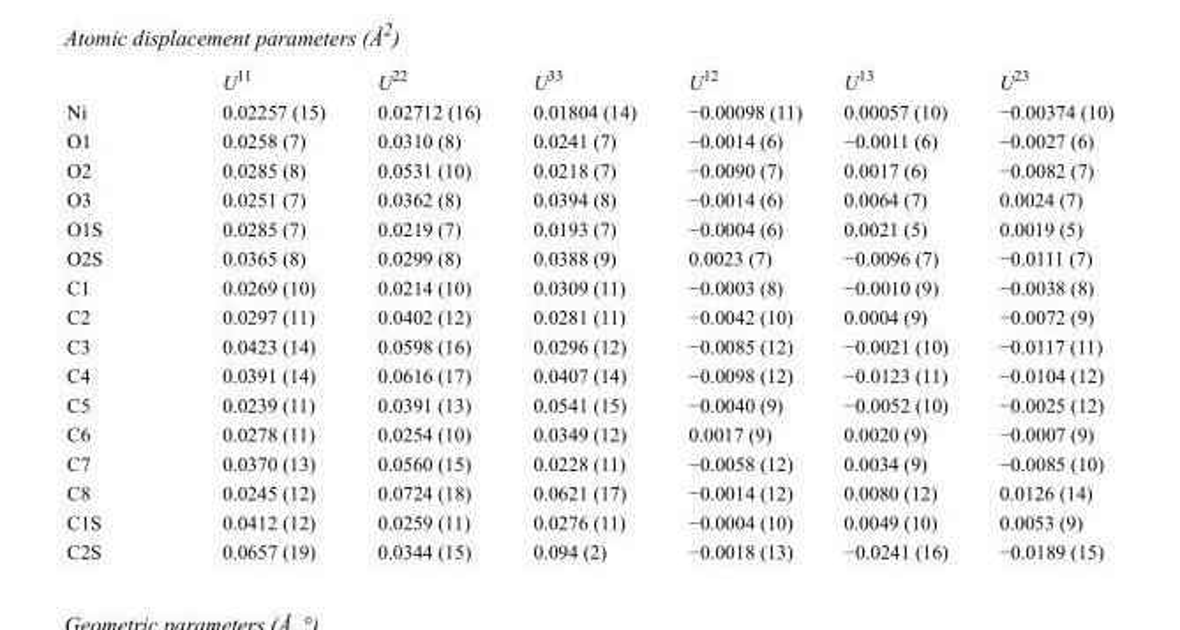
<table><thead><tr><td></td><td>U<sup>11</sup></td><td>U<sup>22</sup></td><td>U<sup>33</sup></td><td>U<sup>12</sup></td><td>U<sup>13</sup></td><td>U<sup>23</sup></td></tr></thead><tbody><tr><td>Ni</td><td>0.02257 (15)</td><td>0.02712 (16)</td><td>0.01804 (14)</td><td>−0.00098 (11)</td><td>0.00057 (10)</td><td>−0.00374 (10)</td></tr><tr><td>O1</td><td>0.0258 (7)</td><td>0.0310 (8)</td><td>0.0241 (7)</td><td>−0.0014 (6)</td><td>−0.0011 (6)</td><td>−0.0027 (6)</td></tr><tr><td>O2</td><td>0.0285 (8)</td><td>0.0531 (10)</td><td>0.0218 (7)</td><td>−0.0090 (7)</td><td>0.0017 (6)</td><td>−0.0082 (7)</td></tr><tr><td>O3</td><td>0.0251 (7)</td><td>0.0362 (8)</td><td>0.0394 (8)</td><td>−0.0014 (6)</td><td>0.0064 (7)</td><td>0.0024 (7)</td></tr><tr><td>O1S</td><td>0.0285 (7)</td><td>0.0219 (7)</td><td>0.0193 (7)</td><td>−0.0004 (6)</td><td>0.0021 (5)</td><td>0.0019 (5)</td></tr><tr><td>O2S</td><td>0.0365 (8)</td><td>0.0299 (8)</td><td>0.0388 (9)</td><td>0.0023 (7)</td><td>−0.0096 (7)</td><td>−0.0111 (7)</td></tr><tr><td>C1</td><td>0.0269 (10)</td><td>0.0214 (10)</td><td>0.0309 (11)</td><td>−0.0003 (8)</td><td>−0.0010 (9)</td><td>−0.0038 (8)</td></tr><tr><td>C2</td><td>0.0297 (11)</td><td>0.0402 (12)</td><td>0.0281 (11)</td><td>−0.0042 (10)</td><td>0.0004 (9)</td><td>−0.0072 (9)</td></tr><tr><td>C3</td><td>0.0423 (14)</td><td>0.0598 (16)</td><td>0.0296 (12)</td><td>−0.0085 (12)</td><td>−0.0021 (10)</td><td>−0.0117 (11)</td></tr><tr><td>C4</td><td>0.0391 (14)</td><td>0.0616 (17)</td><td>0.0407 (14)</td><td>−0.0098 (12)</td><td>−0.0123 (11)</td><td>−0.0104 (12)</td></tr><tr><td>C5</td><td>0.0239 (11)</td><td>0.0391 (13)</td><td>0.0541 (15)</td><td>−0.0040 (9)</td><td>−0.0052 (10)</td><td>−0.0025 (12)</td></tr><tr><td>C6</td><td>0.0278 (11)</td><td>0.0254 (10)</td><td>0.0349 (12)</td><td>0.0017 (9)</td><td>0.0020 (9)</td><td>−0.0007 (9)</td></tr><tr><td>C7</td><td>0.0370 (13)</td><td>0.0560 (15)</td><td>0.0228 (11)</td><td>−0.0058 (12)</td><td>0.0034 (9)</td><td>−0.0085 (10)</td></tr><tr><td>C8</td><td>0.0245 (12)</td><td>0.0724 (18)</td><td>0.0621 (17)</td><td>−0.0014 (12)</td><td>0.0080 (12)</td><td>0.0126 (14)</td></tr><tr><td>C1S</td><td>0.0412 (12)</td><td>0.0259 (11)</td><td>0.0276 (11)</td><td>−0.0004 (10)</td><td>0.0049 (10)</td><td>0.0053 (9)</td></tr><tr><td>C2S</td><td>0.0657 (19)</td><td>0.0344 (15)</td><td>0.094 (2)</td><td>−0.0018 (13)</td><td>−0.0241 (16)</td><td>−0.0189 (15)</td></tr></tbody></table>